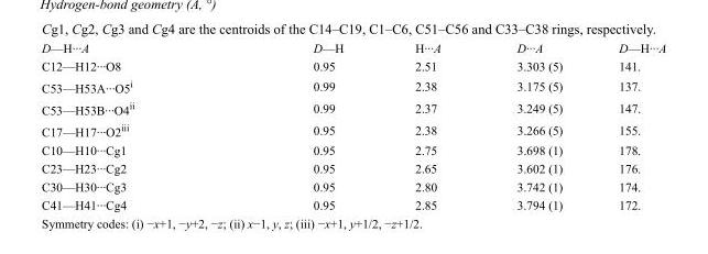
<table><tbody><tr><td>D—H···A</td><td>D—H</td><td>H···A</td><td>D···A</td><td>D—H···A</td></tr><tr><td>C12—H12···O8</td><td>0.95</td><td>2.51</td><td>3.303 (5)</td><td>141.</td></tr><tr><td>C53—H53A···O5<sup>i</sup></td><td>0.99</td><td>2.38</td><td>3.175 (5)</td><td>137.</td></tr><tr><td>C53—H53B···O4<sup>ii</sup></td><td>0.99</td><td>2.37</td><td>3.249 (5)</td><td>147.</td></tr><tr><td>C17—H17···O2<sup>iii</sup></td><td>0.95</td><td>2.38</td><td>3.266 (5)</td><td>155.</td></tr><tr><td>C10—H10···Cg1</td><td>0.95</td><td>2.75</td><td>3.698 (1)</td><td>178.</td></tr><tr><td>C23—H23···Cg2</td><td>0.95</td><td>2.65</td><td>3.602 (1)</td><td>176.</td></tr><tr><td>C30—H30···Cg3</td><td>0.95</td><td>2.80</td><td>3.742 (1)</td><td>174.</td></tr><tr><td>C41—H41···Cg4</td><td>0.95</td><td>2.85</td><td>3.794 (1)</td><td>172.</td></tr></tbody></table>